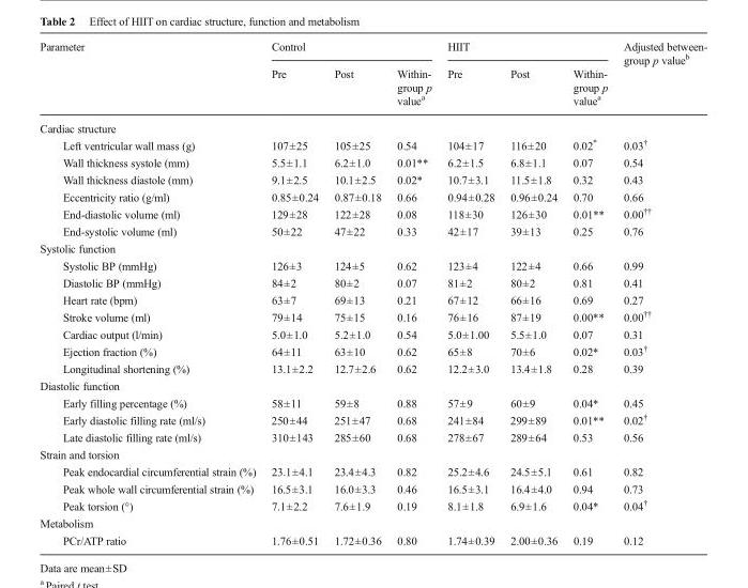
<table><thead><tr><td rowspan="2">Parameter</td><td colspan="3">Control</td><td colspan="3">HIIT</td><td rowspan="2">Adjusted between- group p value<sup>b</sup></td></tr><tr><td>Pre</td><td>Post</td><td>Within- group p value<sup>a</sup></td><td>Pre</td><td>Post</td><td>Within- group p value<sup>a</sup></td></tr></thead><tbody><tr><td colspan="8">Cardiac structure</td></tr><tr><td>Left ventricular wall mass (g)</td><td>107±25</td><td>105±25</td><td>0.54</td><td>104±17</td><td>116±20</td><td>0.02*</td><td>0.03<sup>†</sup></td></tr><tr><td>Wall thickness systole (mm)</td><td>5.5±1.1</td><td>6.2±1.0</td><td>0.01**</td><td>6.2±1.5</td><td>6.8±1.1</td><td>0.07</td><td>0.54</td></tr><tr><td>Wall thickness diastole (mm)</td><td>9.1±2.5</td><td>10.1±2.5</td><td>0.02*</td><td>10.7±3.1</td><td>11.5±1.8</td><td>0.32</td><td>0.43</td></tr><tr><td>Eccentricity ratio (g/ml)</td><td>0.85±0.24</td><td>0.87±0.18</td><td>0.66</td><td>0.94±0.28</td><td>0.96±0.24</td><td>0.70</td><td>0.66</td></tr><tr><td>End-diastolic volume (ml)</td><td>129±28</td><td>122±28</td><td>0.08</td><td>118±30</td><td>126±30</td><td>0.01**</td><td>0.00<sup>††</sup></td></tr><tr><td>End-systolic volume (ml)</td><td>50±22</td><td>47±22</td><td>0.33</td><td>42±17</td><td>39±13</td><td>0.25</td><td>0.76</td></tr><tr><td colspan="8">Systolic function</td></tr><tr><td>Systolic BP (mmHg)</td><td>126±3</td><td>124±5</td><td>0.62</td><td>123±4</td><td>122±4</td><td>0.66</td><td>0.99</td></tr><tr><td>Diastolic BP (mmHg)</td><td>84±2</td><td>80±2</td><td>0.07</td><td>81±2</td><td>80±2</td><td>0.81</td><td>0.41</td></tr><tr><td>Heart rate (bpm)</td><td>63±7</td><td>69±13</td><td>0.21</td><td>67±12</td><td>66±16</td><td>0.69</td><td>0.27</td></tr><tr><td>Stroke volume (ml)</td><td>79±14</td><td>75±15</td><td>0.16</td><td>76±16</td><td>87±19</td><td>0.00**</td><td>0.00<sup>††</sup></td></tr><tr><td>Cardiac output (l/min)</td><td>5.0±1.0</td><td>5.2±1.0</td><td>0.54</td><td>5.0±1.00</td><td>5.5±1.0</td><td>0.07</td><td>0.31</td></tr><tr><td>Ejection fraction (%)</td><td>64±11</td><td>63±10</td><td>0.62</td><td>65±8</td><td>70±6</td><td>0.02*</td><td>0.03<sup>†</sup></td></tr><tr><td>Longitudinal shortening (%)</td><td>13.1±2.2</td><td>12.7±2.6</td><td>0.62</td><td>12.2±3.0</td><td>13.4±1.8</td><td>0.28</td><td>0.39</td></tr><tr><td colspan="8">Diastolic function</td></tr><tr><td>Early filling percentage (%)</td><td>58±11</td><td>59±8</td><td>0.88</td><td>57±9</td><td>60±9</td><td>0.04*</td><td>0.45</td></tr><tr><td>Early diastolic filling rate (ml/s)</td><td>250±44</td><td>251±47</td><td>0.68</td><td>241±84</td><td>299±89</td><td>0.01**</td><td>0.02<sup>†</sup></td></tr><tr><td>Late diastolic filling rate (ml/s)</td><td>310±143</td><td>285±60</td><td>0.68</td><td>278±67</td><td>289±64</td><td>0.53</td><td>0.56</td></tr><tr><td colspan="8">Strain and torsion</td></tr><tr><td>Peak endocardial circumferential strain (%)</td><td>23.1±4.1</td><td>23.4±4.3</td><td>0.82</td><td>25.2±4.6</td><td>24.5±5.1</td><td>0.61</td><td>0.82</td></tr><tr><td>Peak whole wall circumferential strain (%)</td><td>16.5±3.1</td><td>16.0±3.3</td><td>0.46</td><td>16.5±3.1</td><td>16.4±4.0</td><td>0.94</td><td>0.73</td></tr><tr><td>Peak torsion (°)</td><td>7.1±2.2</td><td>7.6±1.9</td><td>0.19</td><td>8.1±1.8</td><td>6.9±1.6</td><td>0.04*</td><td>0.04<sup>†</sup></td></tr><tr><td colspan="8">Metabolism</td></tr><tr><td>PCr/ATP ratio</td><td>1.76±0.51</td><td>1.72±0.36</td><td>0.80</td><td>1.74±0.39</td><td>2.00±0.36</td><td>0.19</td><td>0.12</td></tr></tbody></table>